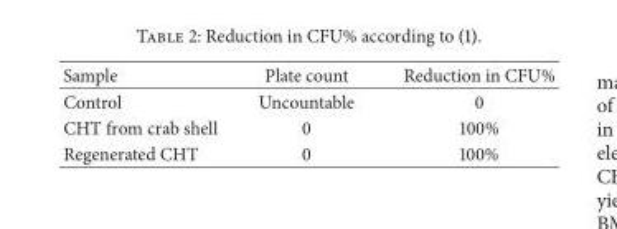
<table><thead><tr><td>Sample</td><td>Plate count</td><td>Reduction in CFU%</td></tr></thead><tbody><tr><td>Control</td><td>Uncountable</td><td>0</td></tr><tr><td>CHT from crab shell</td><td>0</td><td>100%</td></tr><tr><td>Regenerated CHT</td><td>0</td><td>100%</td></tr></tbody></table>